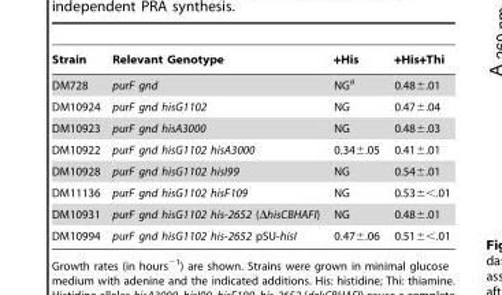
<table><thead><tr><td>Strain</td><td>Relevant Genotype</td><td>+His</td><td>+His+Thi</td></tr></thead><tbody><tr><td>DM728</td><td>purF gnd</td><td>NG<sup>a</sup></td><td>0.48±.01</td></tr><tr><td>DM10924</td><td>purF gnd hisG1102</td><td>NG</td><td>0.47±.04</td></tr><tr><td>DM10923</td><td>purF gnd hisA3000</td><td>NG</td><td>0.48±.03</td></tr><tr><td>DM10922</td><td>purF gnd hisG1102 hisA3000</td><td>0.34±.05</td><td>0.41±.01</td></tr><tr><td>DM10928</td><td>purF gnd hisG1102 hisI99</td><td>NG</td><td>0.54±.01</td></tr><tr><td>DM11136</td><td>purF gnd hisG1102 hisF109</td><td>NG</td><td>0.53±&lt;.01</td></tr><tr><td>DM10931</td><td>purF gnd hisG1102 his-2652 (ΔhisCBHAFI)</td><td>NG</td><td>0.48±.01</td></tr><tr><td>DM10994</td><td>purF gnd hisG1102 his-2652 pSU-hisI</td><td>0.47±.06</td><td>0.51±&lt;.01</td></tr></tbody></table>